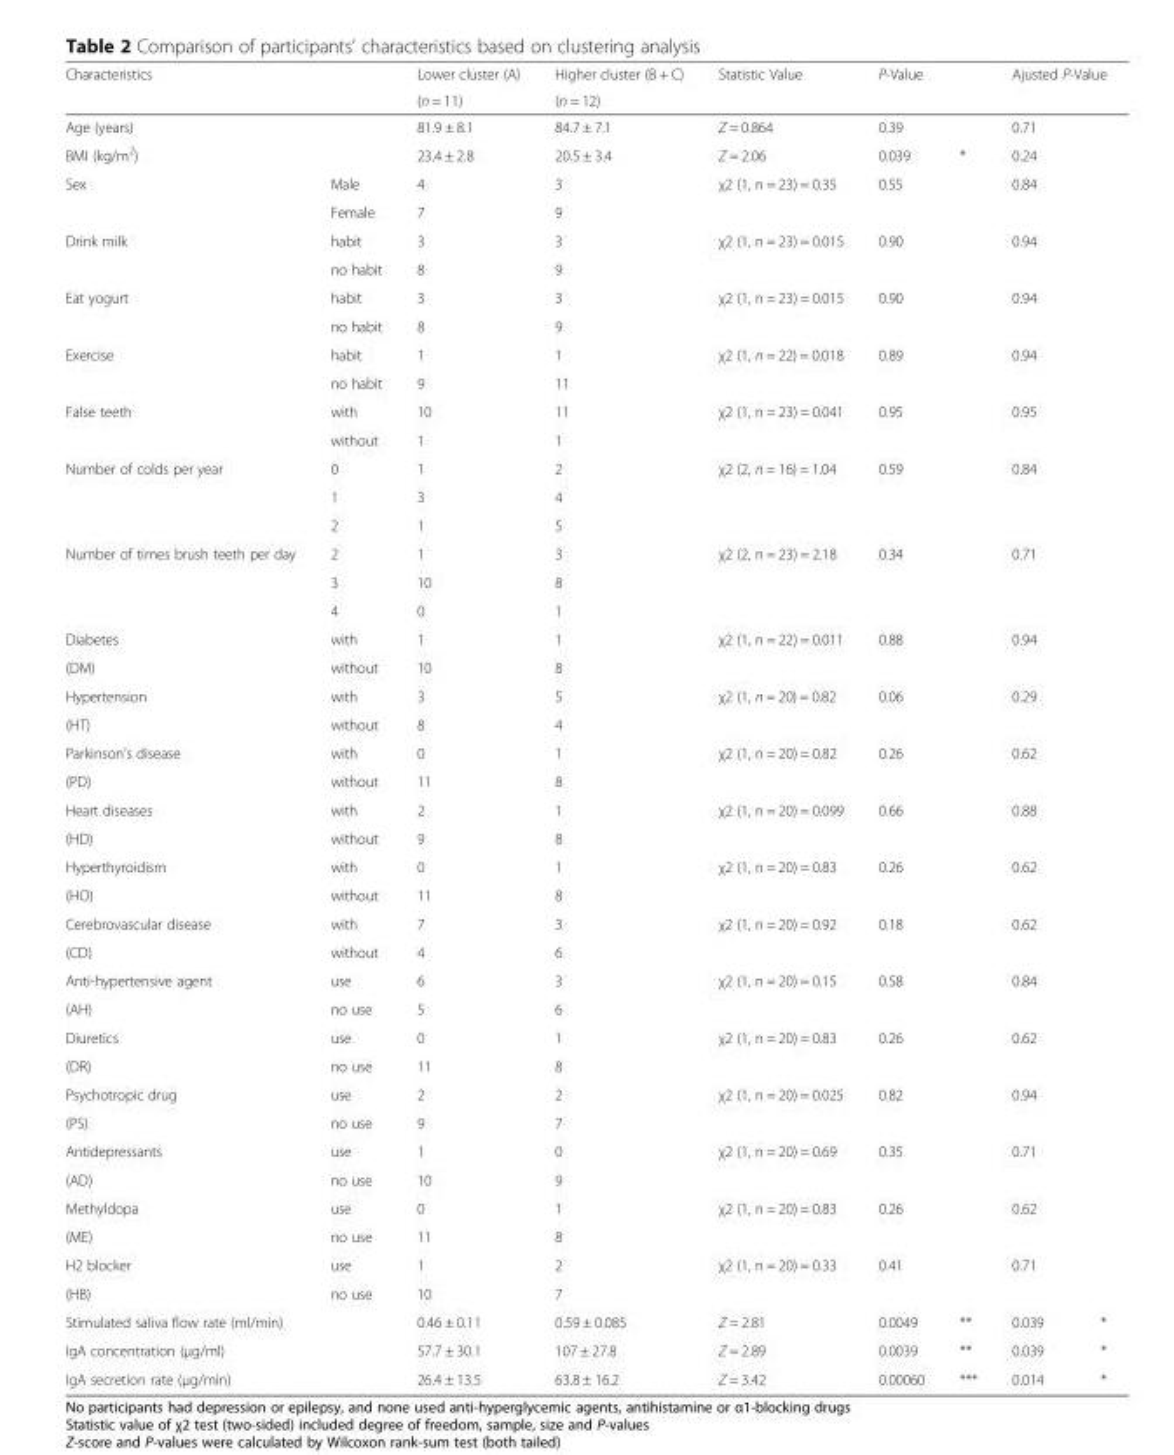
<table><thead><tr><td rowspan="2" colspan="2">Characteristics</td><td rowspan="3">Lower cluster (A) (n = 11) 81.9 ± 8.1</td><td rowspan="3">Higher cluster (B + C) (n = 12) 84.7 ± 7.1</td><td rowspan="3">Statistic Value Z = 0.864</td><td rowspan="2" colspan="2">P-Value</td><td rowspan="2" colspan="2">Ajusted P-Value</td></tr><tr></tr><tr><td>Age (years)</td><td></td><td>0.39</td><td></td><td>0.71</td><td></td></tr></thead><tbody><tr><td>BMI (kg/m<sup>2</sup>)</td><td></td><td>23.4 ± 2.8</td><td>20.5 ± 3.4</td><td>Z = 2.06</td><td>0.039</td><td>*</td><td>0.24</td><td></td></tr><tr><td rowspan="2">Sex</td><td>Male</td><td>4</td><td>3</td><td>χ2 (1, n = 23) = 0.35</td><td>0.55</td><td></td><td>0.84</td><td></td></tr><tr><td>Female</td><td>7</td><td>9</td><td></td><td></td><td></td><td></td><td></td></tr><tr><td rowspan="2">Drink milk</td><td>habit</td><td>3</td><td>3</td><td>χ2 (1, n = 23) = 0.015</td><td>0.90</td><td></td><td>0.94</td><td></td></tr><tr><td>no habit</td><td>8</td><td>9</td><td></td><td></td><td></td><td></td><td></td></tr><tr><td rowspan="2">Eat yogurt</td><td>habit</td><td>3</td><td>3</td><td>χ2 (1, n = 23) = 0.015</td><td>0.90</td><td></td><td>0.94</td><td></td></tr><tr><td>no habit</td><td>8</td><td>9</td><td></td><td></td><td></td><td></td><td></td></tr><tr><td rowspan="2">Exercise</td><td>habit</td><td>1</td><td>1</td><td>χ2 (1, n = 22) = 0.018</td><td>0.89</td><td></td><td>0.94</td><td></td></tr><tr><td>no habit</td><td>9</td><td>11</td><td></td><td></td><td></td><td></td><td></td></tr><tr><td rowspan="2">False teeth</td><td>with</td><td>10</td><td>11</td><td>χ2 (1, n = 23) = 0.041</td><td>0.95</td><td></td><td>0.95</td><td></td></tr><tr><td>without</td><td>1</td><td>1</td><td></td><td></td><td></td><td></td><td></td></tr><tr><td rowspan="3">Number of colds per year</td><td>0</td><td>1</td><td>2</td><td>χ2 (2, n = 16) = 1.04</td><td>0.59</td><td></td><td>0.84</td><td></td></tr><tr><td>1</td><td>3</td><td>4</td><td></td><td></td><td></td><td></td><td></td></tr><tr><td>2</td><td>1</td><td>5</td><td></td><td></td><td></td><td></td><td></td></tr><tr><td rowspan="3">Number of times brush teeth per day</td><td>2</td><td>1</td><td>3</td><td>χ2 (2, n = 23) = 2.18</td><td>0.34</td><td></td><td>0.71</td><td></td></tr><tr><td>3</td><td>10</td><td>8</td><td></td><td></td><td></td><td></td><td></td></tr><tr><td>4</td><td>0</td><td>1</td><td></td><td></td><td></td><td></td><td></td></tr><tr><td>Diabetes</td><td>with</td><td>1</td><td>1</td><td>χ2 (1, n = 22) = 0.011</td><td>0.88</td><td></td><td>0.94</td><td></td></tr><tr><td>(DM)</td><td>without</td><td>10</td><td>8</td><td></td><td></td><td></td><td></td><td></td></tr><tr><td>Hypertension</td><td>with</td><td>3</td><td>5</td><td>χ2 (1, n = 20) = 0.82</td><td>0.06</td><td></td><td>0.29</td><td></td></tr><tr><td>(HT)</td><td>without</td><td>8</td><td>4</td><td></td><td></td><td></td><td></td><td></td></tr><tr><td>Parkinson’s disease</td><td>with</td><td>0</td><td>1</td><td>χ2 (1, n = 20) = 0.82</td><td>0.26</td><td></td><td>0.62</td><td></td></tr><tr><td>(PD)</td><td>without</td><td>11</td><td>8</td><td></td><td></td><td></td><td></td><td></td></tr><tr><td>Heart diseases</td><td>with</td><td>2</td><td>1</td><td>χ2 (1, n = 20) = 0.099</td><td>0.66</td><td></td><td>0.88</td><td></td></tr><tr><td>(HD)</td><td>without</td><td>9</td><td>8</td><td></td><td></td><td></td><td></td><td></td></tr><tr><td>Hyperthyroidism</td><td>with</td><td>0</td><td>1</td><td>χ2 (1, n = 20) = 0.83</td><td>0.26</td><td></td><td>0.62</td><td></td></tr><tr><td>(HO)</td><td>without</td><td>11</td><td>8</td><td></td><td></td><td></td><td></td><td></td></tr><tr><td>Cerebrovascular disease</td><td>with</td><td>7</td><td>3</td><td>χ2 (1, n = 20) = 0.92</td><td>0.18</td><td></td><td>0.62</td><td></td></tr><tr><td>(CD)</td><td>without</td><td>4</td><td>6</td><td></td><td></td><td></td><td></td><td></td></tr><tr><td>Anti-hypertensive agent</td><td>use</td><td>6</td><td>3</td><td>χ2 (1, n = 20) = 0.15</td><td>0.58</td><td></td><td>0.84</td><td></td></tr><tr><td>(AH)</td><td>no use</td><td>5</td><td>6</td><td></td><td></td><td></td><td></td><td></td></tr><tr><td>Diuretics</td><td>use</td><td>0</td><td>1</td><td>χ2 (1, n = 20) = 0.83</td><td>0.26</td><td></td><td>0.62</td><td></td></tr><tr><td>(DR)</td><td>no use</td><td>11</td><td>8</td><td></td><td></td><td></td><td></td><td></td></tr><tr><td>Psychotropic drug</td><td>use</td><td>2</td><td>2</td><td>χ2 (1, n = 20) = 0.025</td><td>0.82</td><td></td><td>0.94</td><td></td></tr><tr><td>(PS)</td><td>no use</td><td>9</td><td>7</td><td></td><td></td><td></td><td></td><td></td></tr><tr><td>Antidepressants</td><td>use</td><td>1</td><td>0</td><td>χ2 (1, n = 20) = 0.69</td><td>0.35</td><td></td><td>0.71</td><td></td></tr><tr><td>(AD)</td><td>no use</td><td>10</td><td>9</td><td></td><td></td><td></td><td></td><td></td></tr><tr><td>Methyldopa</td><td>use</td><td>0</td><td>1</td><td>χ2 (1, n = 20) = 0.83</td><td>0.26</td><td></td><td>0.62</td><td></td></tr><tr><td>(ME)</td><td>no use</td><td>11</td><td>8</td><td></td><td></td><td></td><td></td><td></td></tr><tr><td>H2 blocker</td><td>use</td><td>1</td><td>2</td><td>χ2 (1, n = 20) = 0.33</td><td>0.41</td><td></td><td>0.71</td><td></td></tr><tr><td>(HB)</td><td>no use</td><td>10</td><td>7</td><td></td><td></td><td></td><td></td><td></td></tr><tr><td>Stimulated saliva flow rate (ml/min)</td><td></td><td>0.46 ± 0.11</td><td>0.59 ± 0.085</td><td>Z = 2.81</td><td>0.0049</td><td>**</td><td>0.039</td><td>*</td></tr><tr><td>IgA concentration (μg/ml)</td><td></td><td>57.7 ± 30.1</td><td>107 ± 27.8</td><td>Z = 2.89</td><td>0.0039</td><td>**</td><td>0.039</td><td>*</td></tr><tr><td>IgA secretion rate (μg/min)</td><td></td><td>26.4 ± 13.5</td><td>63.8 ± 16.2</td><td>Z = 3.42</td><td>0.00060</td><td>***</td><td>0.014</td><td>*</td></tr></tbody></table>